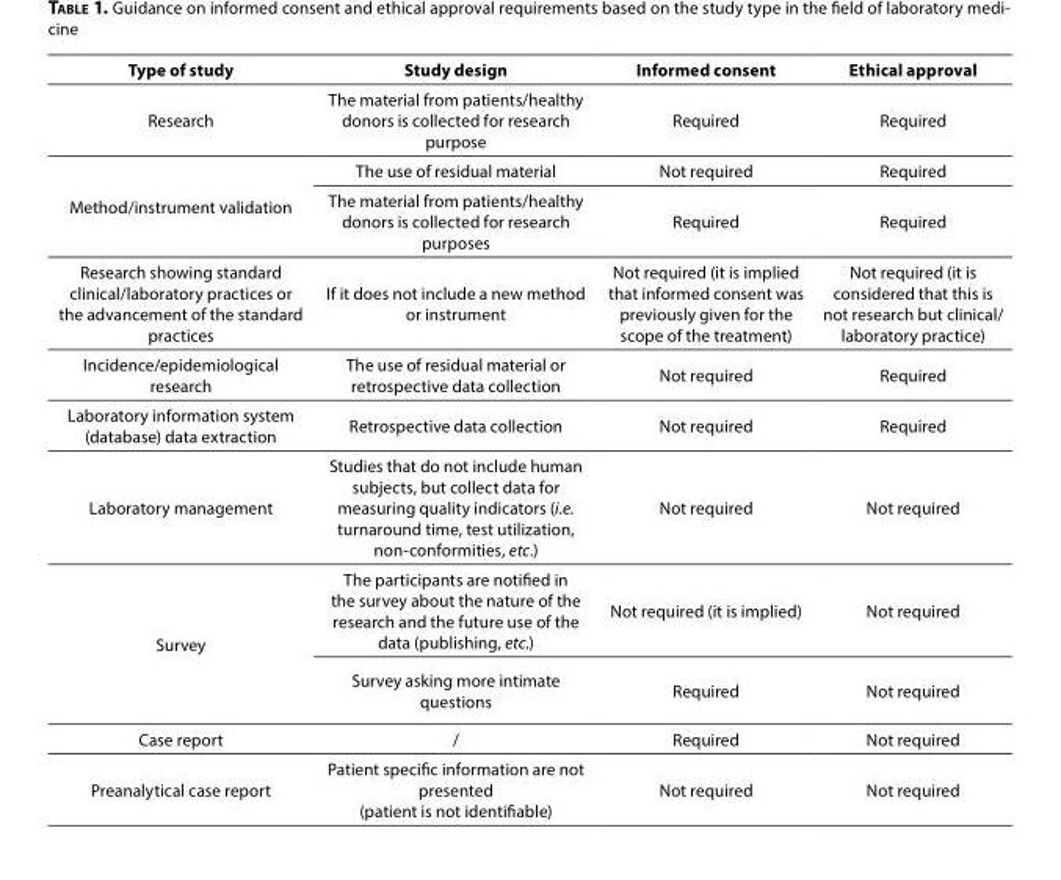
<table><thead><tr><td>Type of study</td><td>Study design</td><td>Informed consent</td><td>Ethical approval</td></tr></thead><tbody><tr><td>Research</td><td>The material from patients/healthy donors is collected for research purpose</td><td>Required</td><td>Required</td></tr><tr><td rowspan="2">Method/instrument validation</td><td>The use of residual material</td><td>Not required</td><td>Required</td></tr><tr><td>The material from patients/healthy donors is collected for research purposes</td><td>Required</td><td>Required</td></tr><tr><td>Research showing standard clinical/laboratory practices or the advancement of the standard practices</td><td>If it does not include a new method or instrument</td><td>Not required (it is implied that informed consent was previously given for the scope of the treatment)</td><td>Not required (it is considered that this is not research but clinical/ laboratory practice)</td></tr><tr><td>Incidence/epidemiological research</td><td>The use of residual material or retrospective data collection</td><td>Not required</td><td>Required</td></tr><tr><td>Laboratory information system (database) data extraction</td><td>Retrospective data collection</td><td>Not required</td><td>Required</td></tr><tr><td>Laboratory management</td><td>Studies that do not include human subjects, but collect data for measuring quality indicators (i.e. turnaround time, test utilization, non-conformities, etc.)</td><td>Not required</td><td>Not required</td></tr><tr><td rowspan="2">Survey</td><td>The participants are notified in the survey about the nature of the research and the future use of the data (publishing, etc.)</td><td>Not required (it is implied)</td><td>Not required</td></tr><tr><td>Survey asking more intimate questions</td><td>Required</td><td>Not required</td></tr><tr><td>Case report</td><td>/</td><td>Required</td><td>Not required</td></tr><tr><td>Preanalytical case report</td><td>Patient specific information are not presented (patient is not identifiable)</td><td>Not required</td><td>Not required</td></tr></tbody></table>